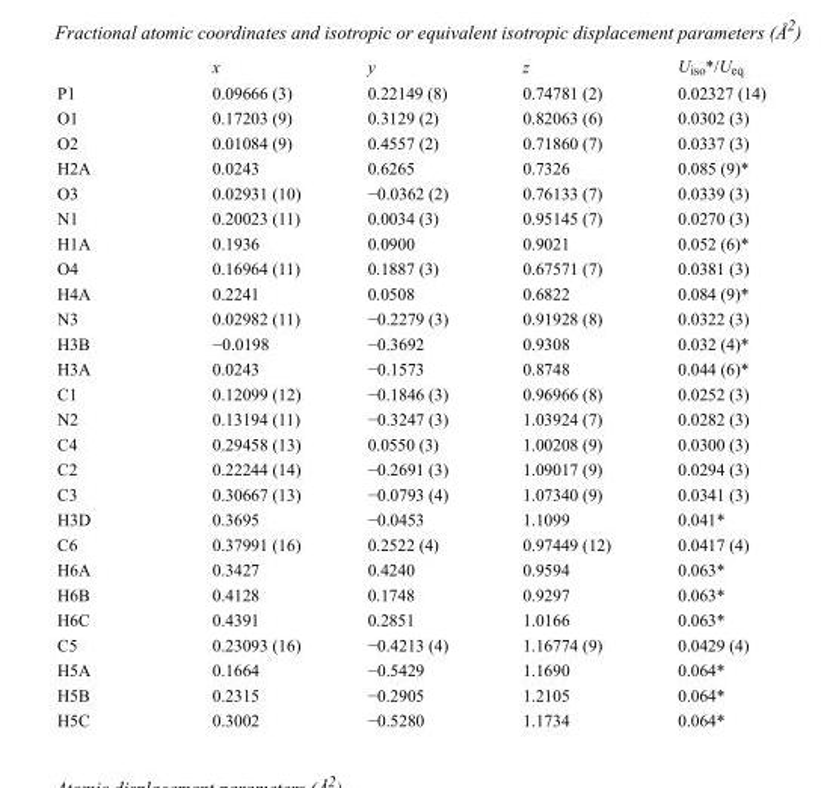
<table><thead><tr><td></td><td>x</td><td>y</td><td>z</td><td>U<sub>iso</sub>*/U<sub>eq</sub></td></tr></thead><tbody><tr><td>P1</td><td>0.09666 (3)</td><td>0.22149 (8)</td><td>0.74781 (2)</td><td>0.02327 (14)</td></tr><tr><td>O1</td><td>0.17203 (9)</td><td>0.3129 (2)</td><td>0.82063 (6)</td><td>0.0302 (3)</td></tr><tr><td>O2</td><td>0.01084 (9)</td><td>0.4557 (2)</td><td>0.71860 (7)</td><td>0.0337 (3)</td></tr><tr><td>H2A</td><td>0.0243</td><td>0.6265</td><td>0.7326</td><td>0.085 (9)*</td></tr><tr><td>O3</td><td>0.02931 (10)</td><td>−0.0362 (2)</td><td>0.76133 (7)</td><td>0.0339 (3)</td></tr><tr><td>N1</td><td>0.20023 (11)</td><td>0.0034 (3)</td><td>0.95145 (7)</td><td>0.0270 (3)</td></tr><tr><td>H1A</td><td>0.1936</td><td>0.0900</td><td>0.9021</td><td>0.052 (6)*</td></tr><tr><td>O4</td><td>0.16964 (11)</td><td>0.1887 (3)</td><td>0.67571 (7)</td><td>0.0381 (3)</td></tr><tr><td>H4A</td><td>0.2241</td><td>0.0508</td><td>0.6822</td><td>0.084 (9)*</td></tr><tr><td>N3</td><td>0.02982 (11)</td><td>−0.2279 (3)</td><td>0.91928 (8)</td><td>0.0322 (3)</td></tr><tr><td>H3B</td><td>−0.0198</td><td>−0.3692</td><td>0.9308</td><td>0.032 (4)*</td></tr><tr><td>H3A</td><td>0.0243</td><td>−0.1573</td><td>0.8748</td><td>0.044 (6)*</td></tr><tr><td>C1</td><td>0.12099 (12)</td><td>−0.1846 (3)</td><td>0.96966 (8)</td><td>0.0252 (3)</td></tr><tr><td>N2</td><td>0.13194 (11)</td><td>−0.3247 (3)</td><td>1.03924 (7)</td><td>0.0282 (3)</td></tr><tr><td>C4</td><td>0.29458 (13)</td><td>0.0550 (3)</td><td>1.00208 (9)</td><td>0.0300 (3)</td></tr><tr><td>C2</td><td>0.22244 (14)</td><td>−0.2691 (3)</td><td>1.09017 (9)</td><td>0.0294 (3)</td></tr><tr><td>C3</td><td>0.30667 (13)</td><td>−0.0793 (4)</td><td>1.07340 (9)</td><td>0.0341 (3)</td></tr><tr><td>H3D</td><td>0.3695</td><td>−0.0453</td><td>1.1099</td><td>0.041*</td></tr><tr><td>C6</td><td>0.37991 (16)</td><td>0.2522 (4)</td><td>0.97449 (12)</td><td>0.0417 (4)</td></tr><tr><td>H6A</td><td>0.3427</td><td>0.4240</td><td>0.9594</td><td>0.063*</td></tr><tr><td>H6B</td><td>0.4128</td><td>0.1748</td><td>0.9297</td><td>0.063*</td></tr><tr><td>H6C</td><td>0.4391</td><td>0.2851</td><td>1.0166</td><td>0.063*</td></tr><tr><td>C5</td><td>0.23093 (16)</td><td>−0.4213 (4)</td><td>1.16774 (9)</td><td>0.0429 (4)</td></tr><tr><td>H5A</td><td>0.1664</td><td>−0.5429</td><td>1.1690</td><td>0.064*</td></tr><tr><td>H5B</td><td>0.2315</td><td>−0.2905</td><td>1.2105</td><td>0.064*</td></tr><tr><td>H5C</td><td>0.3002</td><td>−0.5280</td><td>1.1734</td><td>0.064*</td></tr></tbody></table>